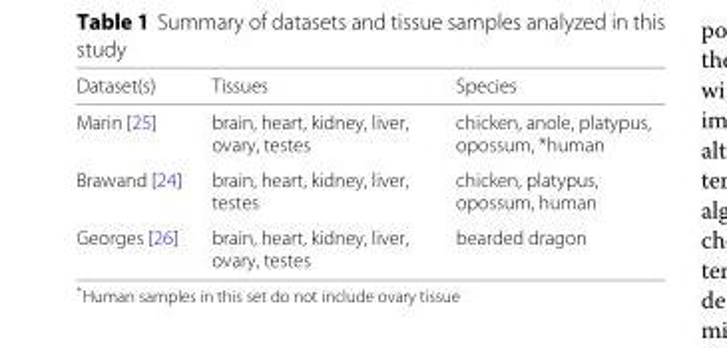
<table><thead><tr><td>Dataset(s)</td><td>Tissues</td><td>Species</td></tr></thead><tbody><tr><td>Marin [25]</td><td>brain, heart, kidney, liver, ovary, testes</td><td>chicken, anole, platypus, opossum, *human</td></tr><tr><td>Brawand [24]</td><td>brain, heart, kidney, liver, testes</td><td>chicken, platypus, opossum, human</td></tr><tr><td>Georges [26]</td><td>brain, heart, kidney, liver, ovary, testes</td><td>bearded dragon</td></tr></tbody></table>